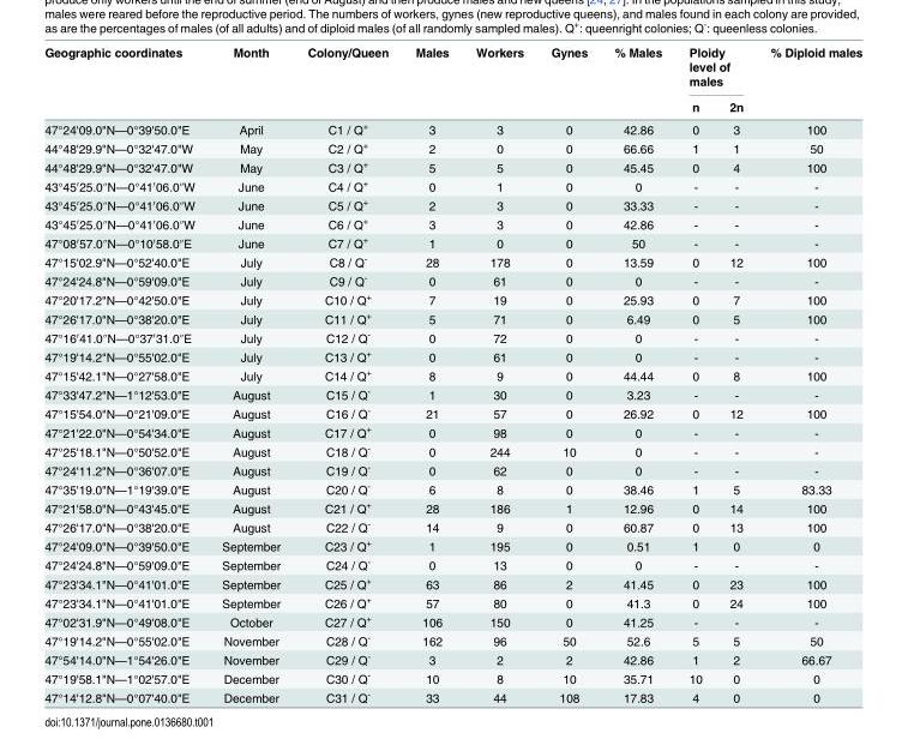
<table><thead><tr><td rowspan="2">Geographic coordinates</td><td rowspan="2">Month</td><td rowspan="2">Colony/Queen</td><td rowspan="2">Males</td><td rowspan="2">Workers</td><td rowspan="2">Gynes</td><td rowspan="2">% Males</td><td colspan="2">Ploidy level of males</td><td rowspan="2">% Diploid males</td></tr><tr><td>n</td><td>2n</td></tr></thead><tbody><tr><td>47°24&#x27;09.0&quot;N—0°39&#x27;50.0&quot;E</td><td>April</td><td>C1 / Q<sup>+</sup></td><td>3</td><td>3</td><td>0</td><td>42.86</td><td>0</td><td>3</td><td>100</td></tr><tr><td>44°48&#x27;29.9&quot;N—0°32&#x27;47.0&quot;W</td><td>May</td><td>C2 / Q<sup>+</sup></td><td>2</td><td>0</td><td>0</td><td>66.66</td><td>1</td><td>1</td><td>50</td></tr><tr><td>44°48&#x27;29.9&quot;N—0°32&#x27;47.0&quot;W</td><td>May</td><td>C3 / Q<sup>+</sup></td><td>5</td><td>5</td><td>0</td><td>45.45</td><td>0</td><td>4</td><td>100</td></tr><tr><td>43°45′25.0″N—0°41′06.0″W</td><td>June</td><td>C4 / Q<sup>+</sup></td><td>0</td><td>1</td><td>0</td><td>0</td><td>-</td><td>-</td><td>-</td></tr><tr><td>43°45′25.0″N—0°41′06.0″W</td><td>June</td><td>C5 / Q<sup>+</sup></td><td>2</td><td>3</td><td>0</td><td>33.33</td><td>-</td><td>-</td><td>-</td></tr><tr><td>43°45′25.0″N—0°41′06.0″W</td><td>June</td><td>C6 / Q<sup>+</sup></td><td>3</td><td>3</td><td>0</td><td>42.86</td><td>-</td><td>-</td><td>-</td></tr><tr><td>47°08′57.0″N—0°10′58.0″E</td><td>June</td><td>C7 / Q<sup>+</sup></td><td>1</td><td>0</td><td>0</td><td>50</td><td>-</td><td>-</td><td>-</td></tr><tr><td>47°15&#x27;02.9&quot;N—0°52&#x27;40.0&quot;E</td><td>July</td><td>C8 / Q<sup>-</sup></td><td>28</td><td>178</td><td>0</td><td>13.59</td><td>0</td><td>12</td><td>100</td></tr><tr><td>47°24&#x27;24.8&quot;N—0°59&#x27;09.0&quot;E</td><td>July</td><td>C9 / Q<sup>-</sup></td><td>0</td><td>61</td><td>0</td><td>0</td><td>-</td><td>-</td><td>-</td></tr><tr><td>47°20&#x27;17.2&quot;N—0°42&#x27;50.0&quot;E</td><td>July</td><td>C10 / Q<sup>+</sup></td><td>7</td><td>19</td><td>0</td><td>25.93</td><td>0</td><td>7</td><td>100</td></tr><tr><td>47°26&#x27;17.0&quot;N—0°38&#x27;20.0&quot;E</td><td>July</td><td>C11 / Q<sup>+</sup></td><td>5</td><td>71</td><td>0</td><td>6.49</td><td>0</td><td>5</td><td>100</td></tr><tr><td>47°16′41.0″N—0°37′31.0″E</td><td>July</td><td>C12 / Q<sup>-</sup></td><td>0</td><td>72</td><td>0</td><td>0</td><td>-</td><td>-</td><td>-</td></tr><tr><td>47°19&#x27;14.2&quot;N—0°55&#x27;02.0&quot;E</td><td>July</td><td>C13 / Q<sup>+</sup></td><td>0</td><td>61</td><td>0</td><td>0</td><td>-</td><td>-</td><td>-</td></tr><tr><td>47°15&#x27;42.1&quot;N—0°27&#x27;58.0&quot;E</td><td>July</td><td>C14 / Q<sup>+</sup></td><td>8</td><td>9</td><td>0</td><td>44.44</td><td>0</td><td>8</td><td>100</td></tr><tr><td>47°33&#x27;47.2&quot;N—1°12&#x27;53.0&quot;E</td><td>August</td><td>C15 / Q<sup>-</sup></td><td>1</td><td>30</td><td>0</td><td>3.23</td><td>-</td><td>-</td><td>-</td></tr><tr><td>47°15&#x27;54.0&quot;N—0°21&#x27;09.0&quot;E</td><td>August</td><td>C16 / Q<sup>-</sup></td><td>21</td><td>57</td><td>0</td><td>26.92</td><td>0</td><td>12</td><td>100</td></tr><tr><td>47°21&#x27;22.0&quot;N—0°54&#x27;34.0&quot;E</td><td>August</td><td>C17 / Q<sup>+</sup></td><td>0</td><td>98</td><td>0</td><td>0</td><td>-</td><td>-</td><td>-</td></tr><tr><td>47°25&#x27;18.1&quot;N—0°50&#x27;52.0&quot;E</td><td>August</td><td>C18 / Q<sup>-</sup></td><td>0</td><td>244</td><td>10</td><td>0</td><td>-</td><td>-</td><td>-</td></tr><tr><td>47°24&#x27;11.2&quot;N—0°36&#x27;07.0&quot;E</td><td>August</td><td>C19 / Q<sup>-</sup></td><td>0</td><td>62</td><td>0</td><td>0</td><td>-</td><td>-</td><td>-</td></tr><tr><td>47°35&#x27;19.0&quot;N—1°19&#x27;39.0&quot;E</td><td>August</td><td>C20 / Q<sup>-</sup></td><td>6</td><td>8</td><td>0</td><td>38.46</td><td>1</td><td>5</td><td>83.33</td></tr><tr><td>47°21&#x27;58.0&quot;N—0°43&#x27;45.0&quot;E</td><td>August</td><td>C21 / Q<sup>+</sup></td><td>28</td><td>186</td><td>1</td><td>12.96</td><td>0</td><td>14</td><td>100</td></tr><tr><td>47°26&#x27;17.0&quot;N—0°38&#x27;20.0&quot;E</td><td>August</td><td>C22 / Q<sup>-</sup></td><td>14</td><td>9</td><td>0</td><td>60.87</td><td>0</td><td>13</td><td>100</td></tr><tr><td>47°24&#x27;09.0&quot;N—0°39&#x27;50.0&quot;E</td><td>September</td><td>C23 / Q<sup>+</sup></td><td>1</td><td>195</td><td>0</td><td>0.51</td><td>1</td><td>0</td><td>0</td></tr><tr><td>47°24&#x27;24.8&quot;N—0°59&#x27;09.0&quot;E</td><td>September</td><td>C24 / Q<sup>-</sup></td><td>0</td><td>13</td><td>0</td><td>0</td><td>-</td><td>-</td><td>-</td></tr><tr><td>47°23&#x27;34.1&quot;N—0°41&#x27;01.0&quot;E</td><td>September</td><td>C25 / Q<sup>+</sup></td><td>63</td><td>86</td><td>2</td><td>41.45</td><td>0</td><td>23</td><td>100</td></tr><tr><td>47°23&#x27;34.1&quot;N—0°41&#x27;01.0&quot;E</td><td>September</td><td>C26 / Q<sup>+</sup></td><td>57</td><td>80</td><td>0</td><td>41.3</td><td>0</td><td>24</td><td>100</td></tr><tr><td>47°02&#x27;31.9&quot;N—0°49&#x27;08.0&quot;E</td><td>October</td><td>C27 / Q<sup>+</sup></td><td>106</td><td>150</td><td>0</td><td>41.25</td><td>-</td><td>-</td><td>-</td></tr><tr><td>47°19&#x27;14.2&quot;N—0°55&#x27;02.0&quot;E</td><td>November</td><td>C28 / Q<sup>-</sup></td><td>162</td><td>96</td><td>50</td><td>52.6</td><td>5</td><td>5</td><td>50</td></tr><tr><td>47°54&#x27;14.0&quot;N—1°54&#x27;26.0&quot;E</td><td>November</td><td>C29 / Q<sup>-</sup></td><td>3</td><td>2</td><td>2</td><td>42.86</td><td>1</td><td>2</td><td>66.67</td></tr><tr><td>47°19&#x27;58.1&quot;N—1°02&#x27;57.0&quot;E</td><td>December</td><td>C30 / Q<sup>-</sup></td><td>10</td><td>8</td><td>10</td><td>35.71</td><td>10</td><td>0</td><td>0</td></tr><tr><td>47°14&#x27;12.8&quot;N—0°07&#x27;40.0&quot;E</td><td>December</td><td>C31 / Q<sup>-</sup></td><td>33</td><td>44</td><td>108</td><td>17.83</td><td>4</td><td>0</td><td>0</td></tr></tbody></table>